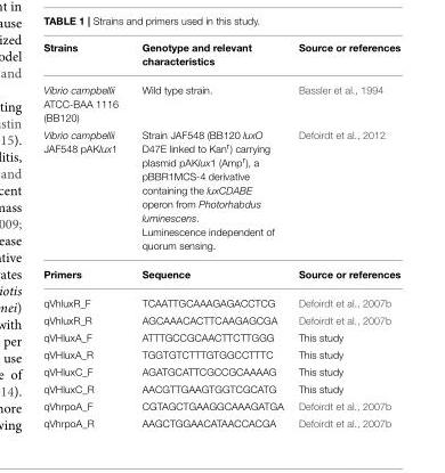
<table><thead><tr><td>Strains</td><td>Genotype and relevant characteristics</td><td>Source or references</td></tr></thead><tbody><tr><td>Vibrio campbellii ATCC-BAA 1116 (BB120)</td><td>Wild type strain.</td><td>Bassler et al., 1994</td></tr><tr><td>Vibrio campbellii JAF548 pAKlux1</td><td>Strain JAF548 (BB120 luxO D47E linked to Kan<sup>r</sup>) carrying plasmid pAKlux1 (Amp<sup>r</sup>), a pBBR1MCS-4 derivative containing the luxCDABE operon from Photorhabdus luminescens. Luminescence independent of quorum sensing.</td><td>Defoirdt et al., 2012</td></tr><tr><td>Primers</td><td>Sequence</td><td>Source or references</td></tr><tr><td>qVhluxR_F</td><td>TCAATTGCAAAGAGACCTCG</td><td>Defoirdt et al., 2007b</td></tr><tr><td>qVhluxR_R</td><td>AGCAAACACTTCAAGAGCGA</td><td>Defoirdt et al., 2007b</td></tr><tr><td>qVHluxA_F</td><td>ATTTGCCGCAACTTCTTGGG</td><td>This study</td></tr><tr><td>qVHluxA_R</td><td>TGGTGTCTTTGTGGCCTTTC</td><td>This study</td></tr><tr><td>qVHluxC_F</td><td>AGATGCATTCGCCGCAAAAG</td><td>This study</td></tr><tr><td>qVHluxC_R</td><td>AACGTTGAAGTGGTCGCATG</td><td>This study</td></tr><tr><td>qVhrpoA_F</td><td>CGTAGCTGAAGGCAAAGATGA</td><td>Defoirdt et al., 2007b</td></tr><tr><td>qVhrpoA_R</td><td>AAGCTGGAACATAACCACGA</td><td>Defoirdt et al., 2007b</td></tr></tbody></table>